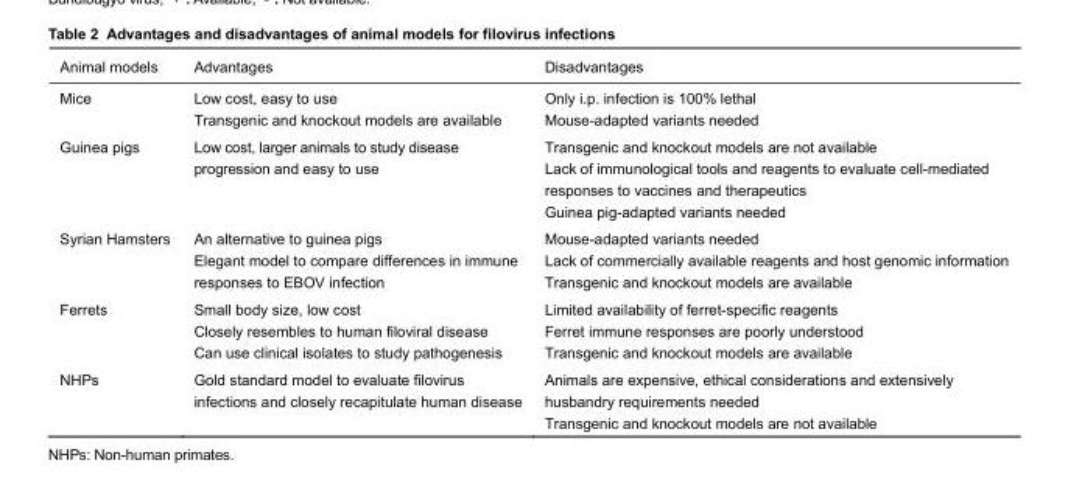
<table><thead><tr><td>Animal models</td><td>Advantages</td><td>Disadvantages</td></tr></thead><tbody><tr><td>Mice</td><td>Low cost, easy to use Transgenic and knockout models are available</td><td>Only i.p. infection is 100% lethal Mouse-adapted variants needed</td></tr><tr><td>Guinea pigs</td><td>Low cost, larger animals to study disease progression and easy to use</td><td>Transgenic and knockout models are not available Lack of immunological tools and reagents to evaluate cell-mediated responses to vaccines and therapeutics Guinea pig-adapted variants needed</td></tr><tr><td>Syrian Hamsters</td><td>An alternative to guinea pigs Elegant model to compare differences in immune responses to EBOV infection</td><td>Mouse-adapted variants needed Lack of commercially available reagents and host genomic information Transgenic and knockout models are available</td></tr><tr><td>Ferrets</td><td>Small body size, low cost Closely resembles to human filoviral disease Can use clinical isolates to study pathogenesis</td><td>Limited availability of ferret-specific reagents Ferret immune responses are poorly understood Transgenic and knockout models are available</td></tr><tr><td>NHPs</td><td>Gold standard model to evaluate filovirus infections and closely recapitulate human disease</td><td>Animals are expensive, ethical considerations and extensively husbandry requirements needed Transgenic and knockout models are not available</td></tr></tbody></table>